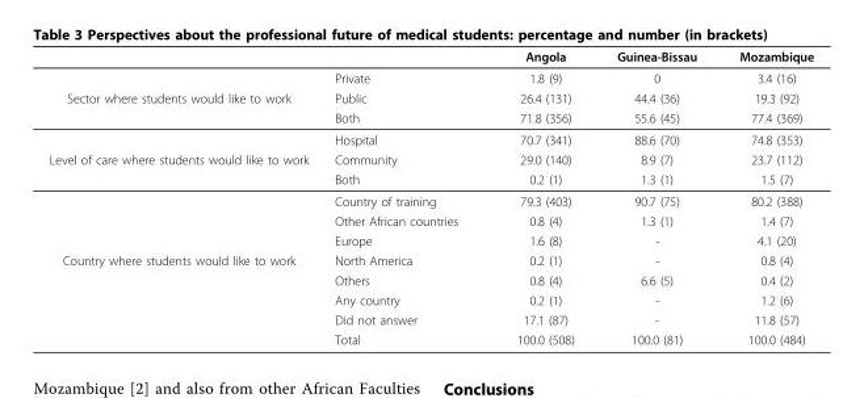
<table><thead><tr><td></td><td></td><td>Angola</td><td>Guinea-Bissau</td><td>Mozambique</td></tr></thead><tbody><tr><td></td><td>Private</td><td>1.8 (9)</td><td>0</td><td>3.4 (16)</td></tr><tr><td rowspan="3">Sector where students would like to work</td><td>Public</td><td>26.4 (131)</td><td>44.4 (36)</td><td>19.3 (92)</td></tr><tr><td>Both</td><td>71.8 (356)</td><td>55.6 (45)</td><td>77.4 (369)</td></tr><tr><td>Hospital</td><td>70.7 (341)</td><td>88.6 (70)</td><td>74.8 (353)</td></tr><tr><td rowspan="5">Level of care where students would like to work</td><td>Community</td><td>29.0 (140)</td><td>8.9 (7)</td><td>23.7 (112)</td></tr><tr><td>Both</td><td>0.2 (1)</td><td>1.3 (1)</td><td>1.5 (7)</td></tr><tr><td>Country of training</td><td>79.3 (403)</td><td>90.7 (75)</td><td>80.2 (388)</td></tr><tr><td>Other African countries</td><td>0.8 (4)</td><td>1.3 (1)</td><td>1.4 (7)</td></tr><tr><td>Europe</td><td>1.6 (8)</td><td>-</td><td>4.1 (20)</td></tr><tr><td rowspan="5">Country where students would like to work</td><td>North America</td><td>0.2 (1)</td><td>-</td><td>0.8 (4)</td></tr><tr><td>Others</td><td>0.8 (4)</td><td>6.6 (5)</td><td>0.4 (2)</td></tr><tr><td>Any country</td><td>0.2 (1)</td><td>-</td><td>1.2 (6)</td></tr><tr><td>Did not answer</td><td>17.1 (87)</td><td>-</td><td>11.8 (57)</td></tr><tr><td>Total</td><td>100.0 (508)</td><td>100.0 (81)</td><td>100.0 (484)</td></tr></tbody></table>